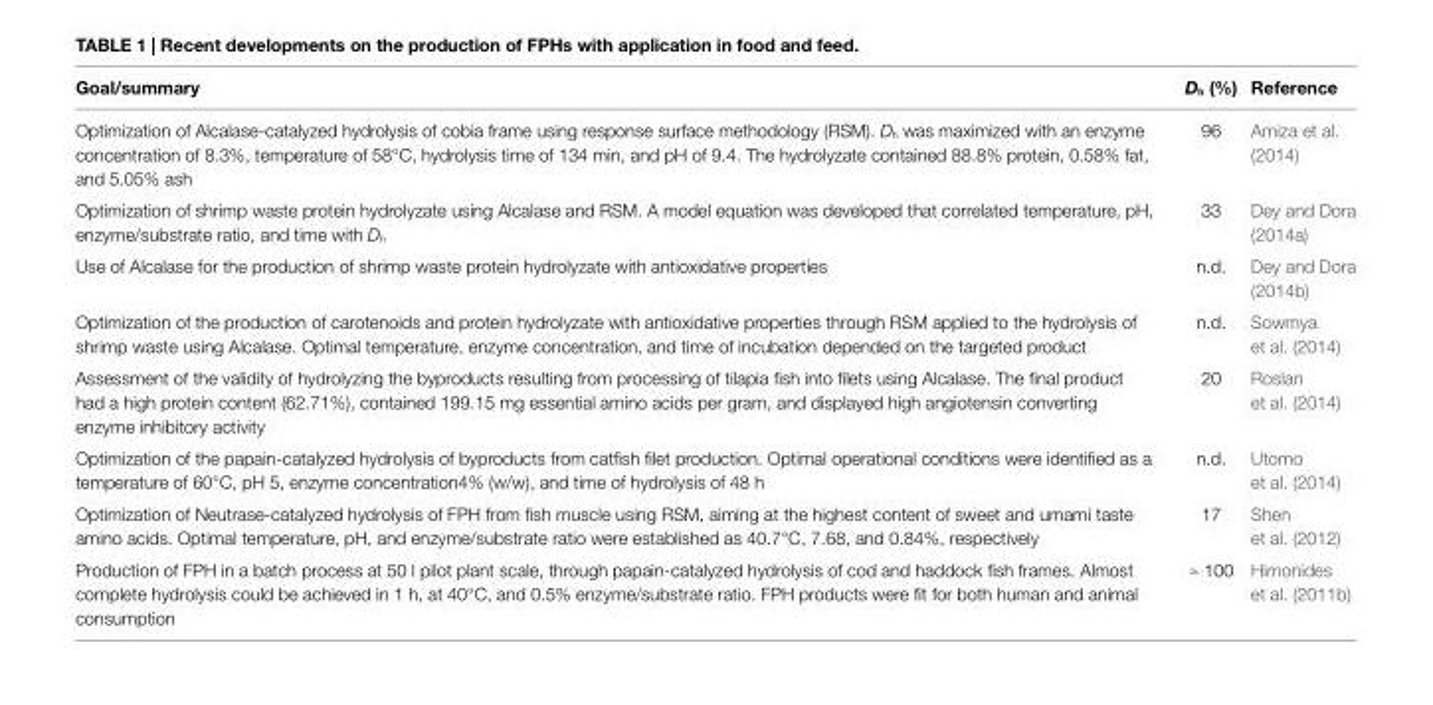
<table><thead><tr><td>goal/summary</td><td>D<sub>h</sub> (%)</td><td>Reference</td></tr></thead><tbody><tr><td>Optimization of Alcalase-catalyzed hydrolysis of cobia frame using response surface methodology (RSM). D<sub>h</sub> was maximized with an enzyme concentration of 8.3%, temperature of 58°C, hydrolysis time of 134 min, and pH of 9.4. The hydrolyzate contained 88.8% protein, 0.58% fat, and 5.05% ash</td><td>96</td><td>Amiza et al. (2014)</td></tr><tr><td>Optimization of shrimp waste protein hydrolyzate using Alcalase and RSM. A model equation was developed that correlated temperature, pH, enzyme/substrate ratio, and time with D<sub>h</sub></td><td>33</td><td>Dey and Dora (2014a)</td></tr><tr><td>Use of Alcalase for the production of shrimp waste protein hydrolyzate with antioxidative properties</td><td>n.d.</td><td>Dey and Dora (2014b)</td></tr><tr><td>Optimization of the production of carotenoids and protein hydrolyzate with antioxidative properties through RSM applied to the hydrolysis of shrimp waste using Alcalase. Optimal temperature, enzyme concentration, and time of incubation depended on the targeted product</td><td>n.d.</td><td>Sowmya et al. (2014)</td></tr><tr><td>Assessment of the validity of hydrolyzing the byproducts resulting from processing of tilapia fish into filets using Alcalase. The final product had a high protein content (62.71%), contained 199.15 mg essential amino acids per gram, and displayed high angiotensin converting enzyme inhibitory activity</td><td>20</td><td>Roslan et al. (2014)</td></tr><tr><td>Optimization of the papain-catalyzed hydrolysis of byproducts from catfish filet production. Optimal operational conditions were identified as a temperature of 60°C, pH 5, enzyme concentration4% (w/w), and time of hydrolysis of 48 h</td><td>n.d.</td><td>Utomo et al. (2014)</td></tr><tr><td>Optimization of Neutrase-catalyzed hydrolysis of FPH from fish muscle using RSM, aiming at the highest content of sweet and umami taste amino acids. Optimal temperature, pH, and enzyme/substrate ratio were established as 40.7°C, 7.68, and 0.84%, respectively</td><td>17</td><td>Shen et al. (2012)</td></tr><tr><td>Production of FPH in a batch process at 50 l pilot plant scale, through papain-catalyzed hydrolysis of cod and haddock fish frames. Almost complete hydrolysis could be achieved in 1 h, at 40°C, and 0.5% enzyme/substrate ratio. FPH products were fit for both human and animal consumption</td><td>≈ 100</td><td>Himonides et al. (2011b)</td></tr></tbody></table>